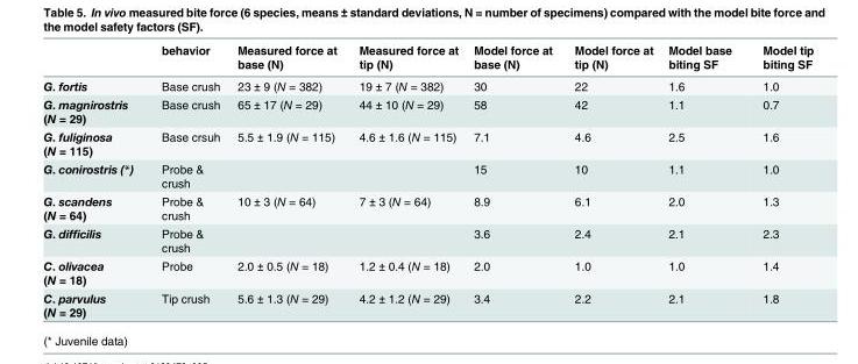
<table><thead><tr><td></td><td>behavior</td><td>Measured force at base (N)</td><td>Measured force at tip (N)</td><td>Model force at base (N)</td><td>Model force at tip (N)</td><td>Model base biting SF</td><td>Model tip biting SF</td></tr></thead><tbody><tr><td>G. fortis</td><td>Base crush</td><td>23 ± 9 (N = 382)</td><td>19 ± 7 (N = 382)</td><td>30</td><td>22</td><td>1.6</td><td>1.0</td></tr><tr><td>G. magnirostris (N = 29)</td><td>Base crush</td><td>65 ± 17 (N = 29)</td><td>44 ± 10 (N = 29)</td><td>58</td><td>42</td><td>1.1</td><td>0.7</td></tr><tr><td>G. fuliginosa (N = 115)</td><td>Base crsuh</td><td>5.5 ± 1.9 (N = 115)</td><td>4.6 ± 1.6 (N = 115)</td><td>7.1</td><td>4.6</td><td>2.5</td><td>1.6</td></tr><tr><td>G. conirostris (*)</td><td>Probe &amp; crush</td><td></td><td></td><td>15</td><td>10</td><td>1.1</td><td>1.0</td></tr><tr><td>G. scandens (N = 64)</td><td>Probe &amp; crush</td><td>10 ± 3 (N = 64)</td><td>7 ± 3 (N = 64)</td><td>8.9</td><td>6.1</td><td>2.0</td><td>1.3</td></tr><tr><td>G. difficilis</td><td>Probe &amp; crush</td><td></td><td></td><td>3.6</td><td>2.4</td><td>2.1</td><td>2.3</td></tr><tr><td>C. olivacea (N = 18)</td><td>Probe</td><td>2.0 ± 0.5 (N = 18)</td><td>1.2 ± 0.4 (N = 18)</td><td>2.0</td><td>1.0</td><td>1.0</td><td>1.4</td></tr><tr><td>C. parvulus (N = 29)</td><td>Tip crush</td><td>5.6 ± 1.3 (N = 29)</td><td>4.2 ± 1.2 (N = 29)</td><td>3.4</td><td>2.2</td><td>2.1</td><td>1.8</td></tr></tbody></table>